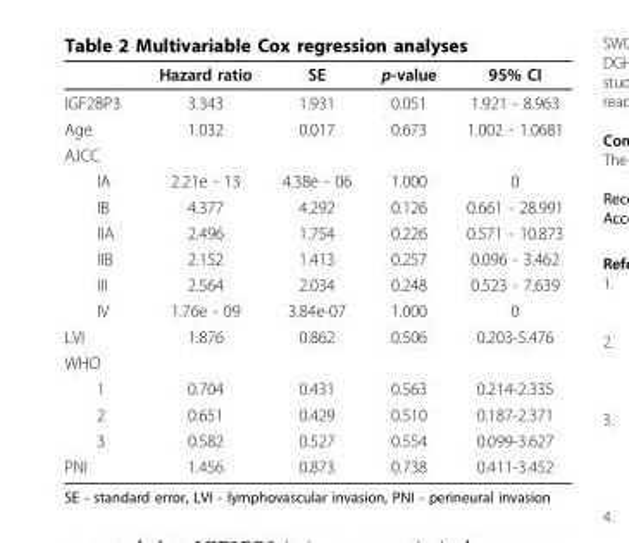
<table><thead><tr><td></td><td>Hazard ratio</td><td>SE</td><td>p-value</td><td>95% CI</td></tr></thead><tbody><tr><td>IGF2BP3</td><td>3.343</td><td>1.931</td><td>0.051</td><td>1.921 - 8.963</td></tr><tr><td>Age</td><td>1.032</td><td>0.017</td><td>0.673</td><td>1.002 - 1.0681</td></tr><tr><td colspan="5">AJCC</td></tr><tr><td>IA</td><td>2.21e - 13</td><td>4.38e - 06</td><td>1.000</td><td>0</td></tr><tr><td>IB</td><td>4.377</td><td>4.292</td><td>0.126</td><td>0.661 - 28.991</td></tr><tr><td>IIA</td><td>2.496</td><td>1.754</td><td>0.226</td><td>0.571 - 10.873</td></tr><tr><td>IIB</td><td>2.152</td><td>1.413</td><td>0.257</td><td>0.096 - 3.462</td></tr><tr><td>III</td><td>2.564</td><td>2.034</td><td>0.248</td><td>0.523 - 7.639</td></tr><tr><td>IV</td><td>1.76e - 09</td><td>3.84e-07</td><td>1.000</td><td>0</td></tr><tr><td>LVI</td><td>1.876</td><td>0.862</td><td>0.506</td><td>0.203-5.476</td></tr><tr><td colspan="5">WHO</td></tr><tr><td>1</td><td>0.704</td><td>0.431</td><td>0.563</td><td>0.214-2.335</td></tr><tr><td>2</td><td>0.651</td><td>0.429</td><td>0.510</td><td>0.187-2.371</td></tr><tr><td>3</td><td>0.582</td><td>0.527</td><td>0.554</td><td>0.099-3.627</td></tr><tr><td>PNI</td><td>1.456</td><td>0.873</td><td>0.738</td><td>0.411-3.452</td></tr></tbody></table>